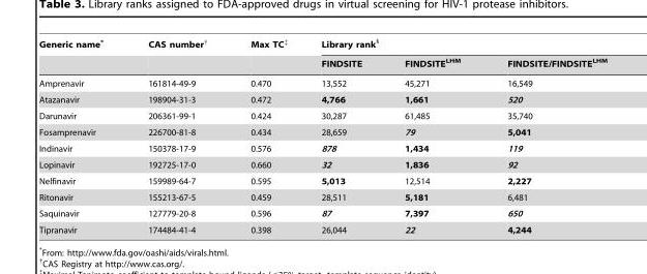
<table><thead><tr><td rowspan="2">Generic name*</td><td rowspan="2">CAS number†</td><td rowspan="2">Max TC‡</td><td colspan="3">Library rank§</td></tr><tr><td>FINDSITE</td><td>FINDSITE<sup>LHM</sup></td><td>FINDSITE/FINDSITE<sup>LHM</sup></td></tr></thead><tbody><tr><td>Amprenavir</td><td>161814-49-9</td><td>0.470</td><td>13,552</td><td>45,271</td><td>16,549</td></tr><tr><td>Atazanavir</td><td>198904-31-3</td><td>0.472</td><td>4,766</td><td>1,661</td><td>520</td></tr><tr><td>Darunavir</td><td>206361-99-1</td><td>0.424</td><td>30,287</td><td>61,485</td><td>35,740</td></tr><tr><td>Fosamprenavir</td><td>226700-81-8</td><td>0.434</td><td>28,659</td><td>79</td><td>5,041</td></tr><tr><td>Indinavir</td><td>150378-17-9</td><td>0.576</td><td>878</td><td>1,434</td><td>119</td></tr><tr><td>Lopinavir</td><td>192725-17-0</td><td>0.660</td><td>32</td><td>1,836</td><td>92</td></tr><tr><td>Nelfinavir</td><td>159989-64-7</td><td>0.595</td><td>5,013</td><td>12,514</td><td>2,227</td></tr><tr><td>Ritonavir</td><td>155213-67-5</td><td>0.459</td><td>28,511</td><td>5,181</td><td>6,481</td></tr><tr><td>Saquinavir</td><td>127779-20-8</td><td>0.596</td><td>87</td><td>7,397</td><td>650</td></tr><tr><td>Tipranavir</td><td>174484-41-4</td><td>0.398</td><td>26,044</td><td>22</td><td>4,244</td></tr></tbody></table>